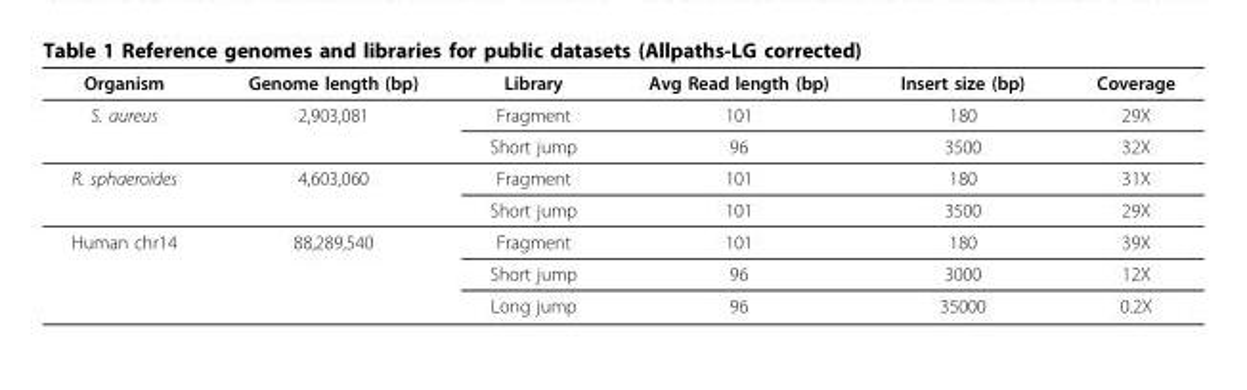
<table><thead><tr><td>Organism</td><td>Genome length (bp)</td><td>Library</td><td>Avg Read length (bp)</td><td>Insert size (bp)</td><td>Coverage</td></tr></thead><tbody><tr><td rowspan="2">S. aureus</td><td>2,903,081</td><td>Fragment</td><td>101</td><td>180</td><td>29X</td></tr><tr><td></td><td>Short jump</td><td>96</td><td>3500</td><td>32X</td></tr><tr><td rowspan="2">R. sphaeroides</td><td>4,603,060</td><td>Fragment</td><td>101</td><td>180</td><td>31X</td></tr><tr><td></td><td>Short jump</td><td>101</td><td>3500</td><td>29X</td></tr><tr><td rowspan="3">Human chr14</td><td>88,289,540</td><td>Fragment</td><td>101</td><td>180</td><td>39X</td></tr><tr><td></td><td>Short jump</td><td>96</td><td>3000</td><td>12X</td></tr><tr><td></td><td>Long jump</td><td>96</td><td>35000</td><td>0.2X</td></tr></tbody></table>